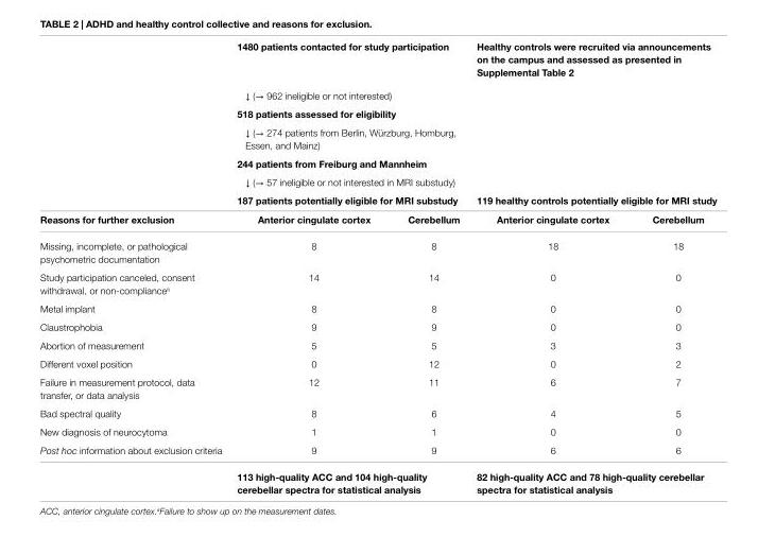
<table><thead><tr><td></td><td colspan="2">1480 patients contacted for study participation</td><td colspan="2">healthy controls were recruited via announcements on the campus and assessed as presented in supplemental Table 2</td></tr></thead><tbody><tr><td></td><td colspan="2">↓ (→ 962 ineligible or not interested)</td><td colspan="2"></td></tr><tr><td></td><td colspan="2">518 patients assessed for eligibility</td><td colspan="2"></td></tr><tr><td></td><td colspan="2">↓ (→ 274 patients from Berlin, Würzburg, Homburg, Essen, and Mainz)</td><td colspan="2"></td></tr><tr><td></td><td colspan="2">244 patients from Freiburg and Mannheim</td><td colspan="2"></td></tr><tr><td></td><td colspan="2">↓ (→ 57 ineligible or not interested in MRI substudy)</td><td colspan="2"></td></tr><tr><td></td><td colspan="2">187 patients potentially eligible for Mri substudy</td><td colspan="2">119 healthy controls potentially eligible for Mri study</td></tr><tr><td>reasons for further exclusion</td><td>anterior cingulate cortex</td><td>cerebellum</td><td>anterior cingulate cortex</td><td>cerebellum</td></tr><tr><td>Missing, incomplete, or pathological psychometric documentation</td><td>8</td><td>8</td><td>18</td><td>18</td></tr><tr><td>Study participation canceled, consent withdrawal, or non-compliance<sup>a</sup></td><td>14</td><td>14</td><td>0</td><td>0</td></tr><tr><td>Metal implant</td><td>8</td><td>8</td><td>0</td><td>0</td></tr><tr><td>Claustrophobia</td><td>9</td><td>9</td><td>0</td><td>0</td></tr><tr><td>Abortion of measurement</td><td>5</td><td>5</td><td>3</td><td>3</td></tr><tr><td>Different voxel position</td><td>0</td><td>12</td><td>0</td><td>2</td></tr><tr><td>Failure in measurement protocol, data transfer, or data analysis</td><td>12</td><td>11</td><td>6</td><td>7</td></tr><tr><td>Bad spectral quality</td><td>8</td><td>6</td><td>4</td><td>5</td></tr><tr><td>New diagnosis of neurocytoma</td><td>1</td><td>1</td><td>0</td><td>0</td></tr><tr><td rowspan="2">Post hoc information about exclusion criteria</td><td>9</td><td>9</td><td>6</td><td>6</td></tr><tr><td colspan="2">113 high-quality acc and 104 high-quality cerebellar spectra for statistical analysis</td><td colspan="2">82 high-quality acc and 78 high-quality cerebellar spectra for statistical analysis</td></tr></tbody></table>